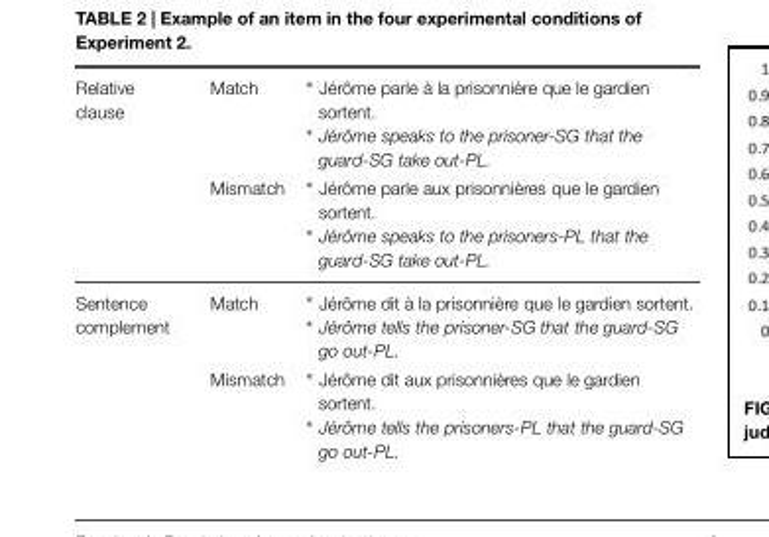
<table><tbody><tr><td rowspan="2">Relative clause</td><td>Match</td><td>∗ Jérôme parle à la prisonnière que le gardien sortent. ∗ Jérôme speaks to the prisoner-SG that the guard-SG take out-PL.</td></tr><tr><td>Mismatch</td><td>∗ Jérôme parle aux prisonnières que le gardien sortent. ∗ Jérôme speaks to the prisoners-PL that the guard-SG take out-PL.</td></tr><tr><td rowspan="2">Sentence complement</td><td>Match</td><td>∗ Jérôme dit à la prisonnière que le gardien sortent. ∗ Jérôme tells the prisoner-SG that the guard-SG go out-PL.</td></tr><tr><td>Mismatch</td><td>∗ Jérôme dit aux prisonnières que le gardien sortent. ∗ Jérôme tells the prisoners-PL that the guard-SG go out-PL.</td></tr></tbody></table>